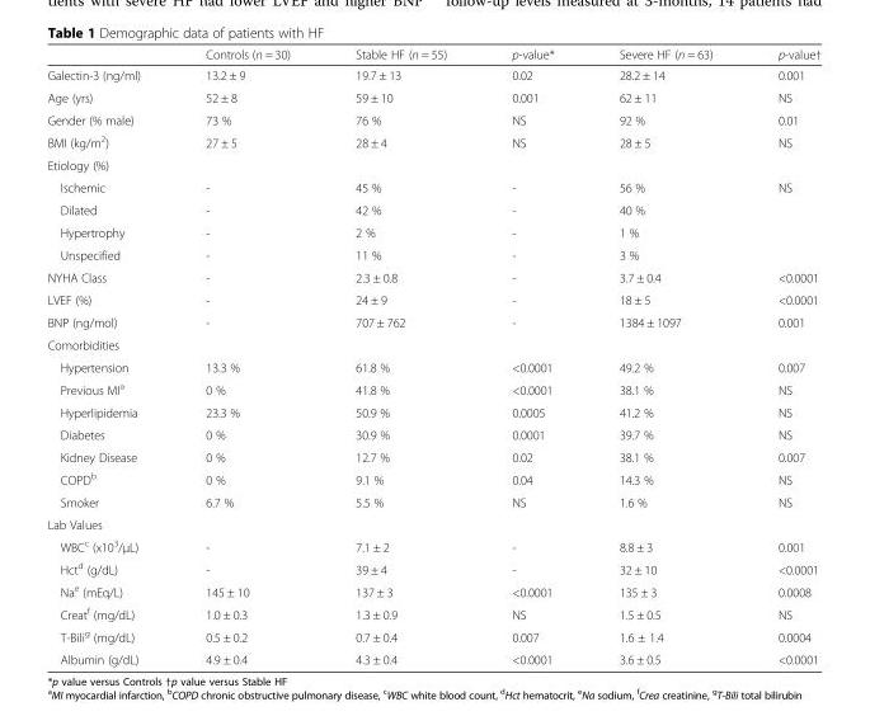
<table><thead><tr><td></td><td>Controls (n = 30)</td><td>Stable HF (n = 55)</td><td>p-value*</td><td>Severe HF (n = 63)</td><td>p-value†</td></tr></thead><tbody><tr><td>Galectin-3 (ng/ml)</td><td>13.2 ± 9</td><td>19.7 ± 13</td><td>0.02</td><td>28.2 ± 14</td><td>0.001</td></tr><tr><td>Age (yrs)</td><td>52 ± 8</td><td>59 ± 10</td><td>0.001</td><td>62 ± 11</td><td>NS</td></tr><tr><td>Gender (% male)</td><td>73 %</td><td>76 %</td><td>NS</td><td>92 %</td><td>0.01</td></tr><tr><td>BMI (kg/m<sup>2</sup>)</td><td>27 ± 5</td><td>28 ± 4</td><td>NS</td><td>28 ± 5</td><td>NS</td></tr><tr><td colspan="6">Etiology (%)</td></tr><tr><td>Ischemic</td><td>-</td><td>45 %</td><td>-</td><td>56 %</td><td>NS</td></tr><tr><td>Dilated</td><td>-</td><td>42 %</td><td>-</td><td>40 %</td><td></td></tr><tr><td>Hypertrophy</td><td>-</td><td>2 %</td><td>-</td><td>1 %</td><td></td></tr><tr><td>Unspecified</td><td>-</td><td>11 %</td><td>-</td><td>3 %</td><td></td></tr><tr><td>NYHA Class</td><td>-</td><td>2.3 ± 0.8</td><td>-</td><td>3.7 ± 0.4</td><td>&lt;0.0001</td></tr><tr><td>LVEF (%)</td><td>-</td><td>24 ± 9</td><td>-</td><td>18 ± 5</td><td>&lt;0.0001</td></tr><tr><td>BNP (ng/mol)</td><td>-</td><td>707 ± 762</td><td>-</td><td>1384 ± 1097</td><td>0.001</td></tr><tr><td colspan="6">Comorbidities</td></tr><tr><td>Hypertension</td><td>13.3 %</td><td>61.8 %</td><td>&lt;0.0001</td><td>49.2 %</td><td>0.007</td></tr><tr><td>Previous MI<sup>a</sup></td><td>0 %</td><td>41.8 %</td><td>&lt;0.0001</td><td>38.1 %</td><td>NS</td></tr><tr><td>Hyperlipidemia</td><td>23.3 %</td><td>50.9 %</td><td>0.0005</td><td>41.2 %</td><td>NS</td></tr><tr><td>Diabetes</td><td>0 %</td><td>30.9 %</td><td>0.0001</td><td>39.7 %</td><td>NS</td></tr><tr><td>Kidney Disease</td><td>0 %</td><td>12.7 %</td><td>0.02</td><td>38.1 %</td><td>0.007</td></tr><tr><td>COPD<sup>b</sup></td><td>0 %</td><td>9.1 %</td><td>0.04</td><td>14.3 %</td><td>NS</td></tr><tr><td>Smoker</td><td>6.7 %</td><td>5.5 %</td><td>NS</td><td>1.6 %</td><td>NS</td></tr><tr><td colspan="6">Lab Values</td></tr><tr><td>WBC<sup>c</sup> (x10<sup>3</sup>/μL)</td><td>-</td><td>7.1 ± 2</td><td>-</td><td>8.8 ± 3</td><td>0.001</td></tr><tr><td>Hct<sup>d</sup> (g/dL)</td><td>-</td><td>39 ± 4</td><td>-</td><td>32 ± 10</td><td>&lt;0.0001</td></tr><tr><td>Na<sup>e</sup> (mEq/L)</td><td>145 ± 10</td><td>137 ± 3</td><td>&lt;0.0001</td><td>135 ± 3</td><td>0.0008</td></tr><tr><td>Creat<sup>f</sup> (mg/dL)</td><td>1.0 ± 0.3</td><td>1.3 ± 0.9</td><td>NS</td><td>1.5 ± 0.5</td><td>NS</td></tr><tr><td>T-Bili<sup>g</sup> (mg/dL)</td><td>0.5 ± 0.2</td><td>0.7 ± 0.4</td><td>0.007</td><td>1.6 ± 1.4</td><td>0.0004</td></tr><tr><td>Albumin (g/dL)</td><td>4.9 ± 0.4</td><td>4.3 ± 0.4</td><td>&lt;0.0001</td><td>3.6 ± 0.5</td><td>&lt;0.0001</td></tr></tbody></table>